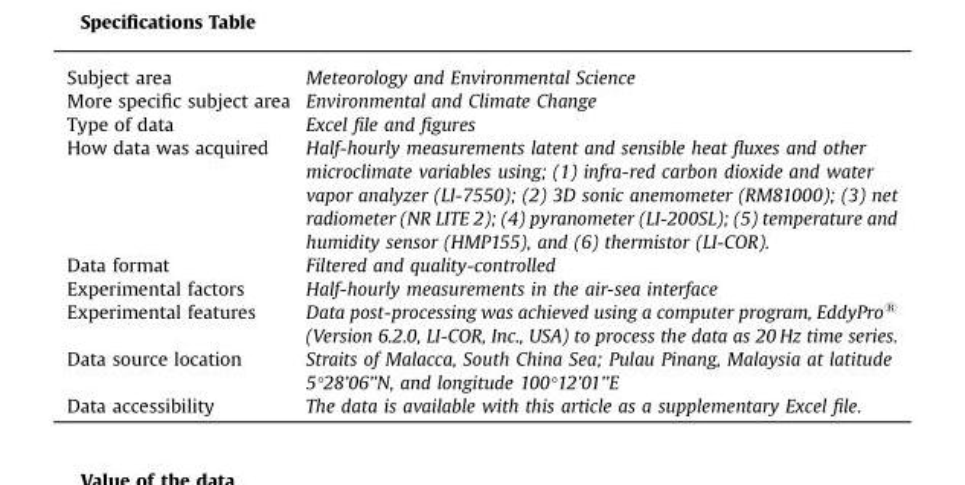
<table><tbody><tr><td>Subject area</td><td>Meteorology and Environmental Science</td></tr><tr><td>More specific subject area</td><td>Environmental and Climate Change</td></tr><tr><td>Type of data</td><td>Excel file and figures</td></tr><tr><td>How data was acquired</td><td>Half-hourly measurements latent and sensible heat fluxes and other microclimate variables using; (1) infra-red carbon dioxide and water vapor analyzer (LI-7550); (2) 3D sonic anemometer (RM81000); (3) net radiometer (NR LITE 2); (4) pyranometer (LI-200SL); (5) temperature and humidity sensor (HMP155), and (6) thermistor (LI-COR).</td></tr><tr><td>Data format</td><td>Filtered and quality-controlled</td></tr><tr><td>Experimental factors</td><td>Half-hourly measurements in the air-sea interface</td></tr><tr><td>Experimental features</td><td>Data post-processing was achieved using a computer program, EddyPro® (Version 6.2.0, LI-COR, Inc., USA) to process the data as 20 Hz time series.</td></tr><tr><td>Data source location</td><td>Straits of Malacca, South China Sea; Pulau Pinang, Malaysia at latitude 5°28’06’’N, and longitude 100°12’01’’E</td></tr><tr><td>Data accessibility</td><td>The data is available with this article as a supplementary Excel file.</td></tr></tbody></table>